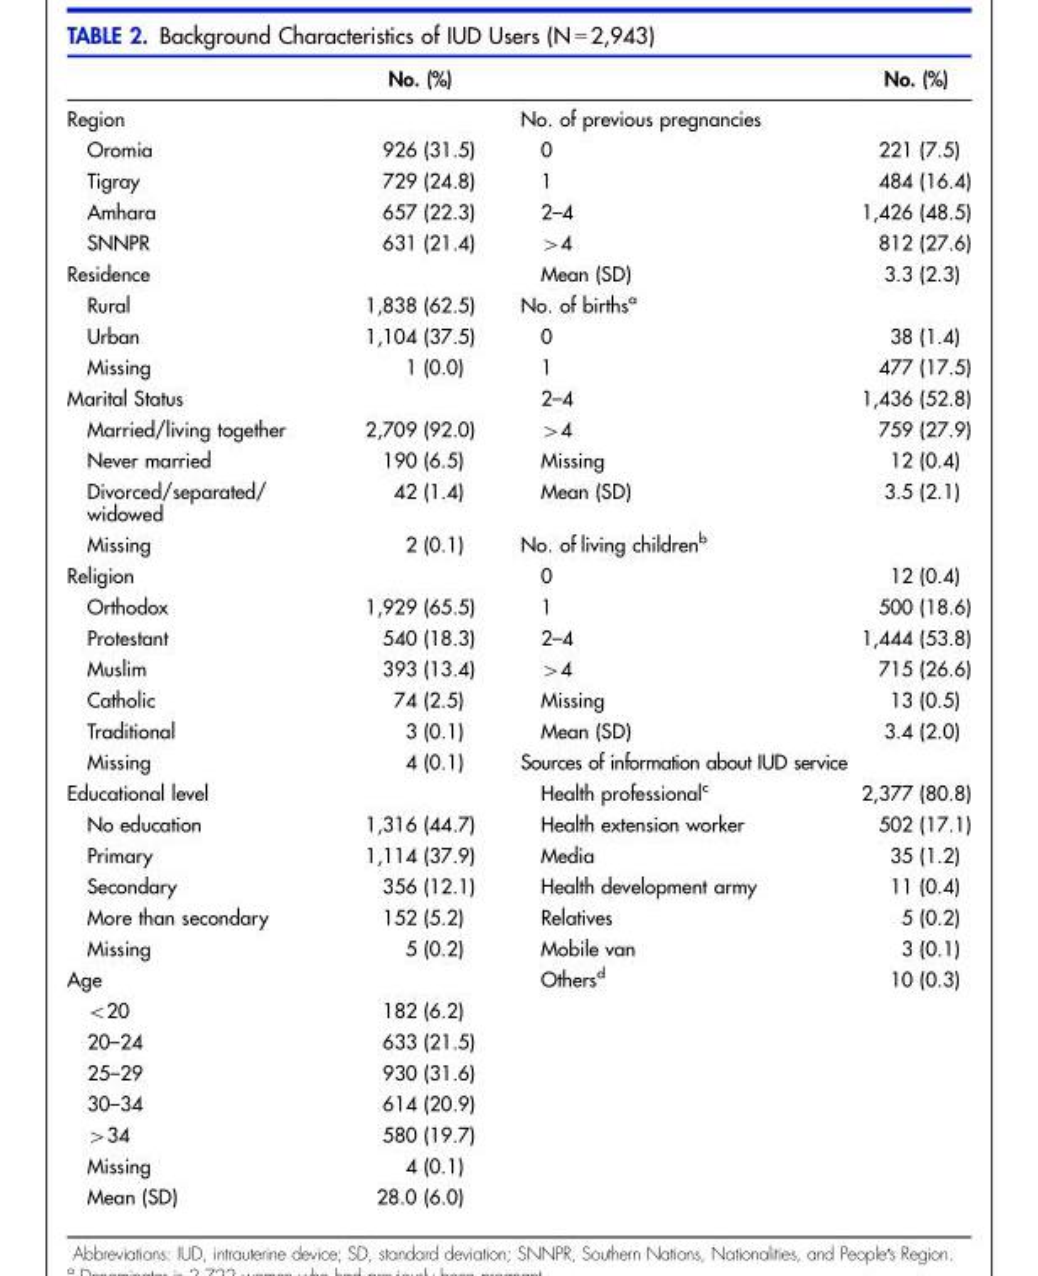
<table><thead><tr><td></td><td>No. (%)</td><td></td><td>No. (%)</td></tr></thead><tbody><tr><td>Region</td><td></td><td>No. of previous pregnancies</td><td></td></tr><tr><td>Oromia</td><td>926 (31.5)</td><td>0</td><td>221 (7.5)</td></tr><tr><td>Tigray</td><td>729 (24.8)</td><td>1</td><td>484 (16.4)</td></tr><tr><td>Amhara</td><td>657 (22.3)</td><td>2–4</td><td>1,426 (48.5)</td></tr><tr><td>SNNPR</td><td>631 (21.4)</td><td>&gt;4</td><td>812 (27.6)</td></tr><tr><td>Residence</td><td></td><td>Mean (SD)</td><td>3.3 (2.3)</td></tr><tr><td>Rural</td><td>1,838 (62.5)</td><td>No. of births<sup>a</sup></td><td></td></tr><tr><td>Urban</td><td>1,104 (37.5)</td><td>0</td><td>38 (1.4)</td></tr><tr><td>Missing</td><td>1 (0.0)</td><td>1</td><td>477 (17.5)</td></tr><tr><td>Marital Status</td><td></td><td>2–4</td><td>1,436 (52.8)</td></tr><tr><td>Married/living together</td><td>2,709 (92.0)</td><td>&gt;4</td><td>759 (27.9)</td></tr><tr><td>Never married</td><td>190 (6.5)</td><td>Missing</td><td>12 (0.4)</td></tr><tr><td>Divorced/separated/ widowed</td><td>42 (1.4)</td><td>Mean (SD)</td><td>3.5 (2.1)</td></tr><tr><td>Missing</td><td>2 (0.1)</td><td>No. of living children<sup>b</sup></td><td></td></tr><tr><td>Religion</td><td></td><td>0</td><td>12 (0.4)</td></tr><tr><td>Orthodox</td><td>1,929 (65.5)</td><td>1</td><td>500 (18.6)</td></tr><tr><td>Protestant</td><td>540 (18.3)</td><td>2–4</td><td>1,444 (53.8)</td></tr><tr><td>Muslim</td><td>393 (13.4)</td><td>&gt;4</td><td>715 (26.6)</td></tr><tr><td>Catholic</td><td>74 (2.5)</td><td>Missing</td><td>13 (0.5)</td></tr><tr><td>Traditional</td><td>3 (0.1)</td><td>Mean (SD)</td><td>3.4 (2.0)</td></tr><tr><td>Missing</td><td>4 (0.1)</td><td>Sources of information about IUD service</td><td></td></tr><tr><td>Educational level</td><td></td><td>Health professional<sup>c</sup></td><td>2,377 (80.8)</td></tr><tr><td>No education</td><td>1,316 (44.7)</td><td>Health extension worker</td><td>502 (17.1)</td></tr><tr><td>Primary</td><td>1,114 (37.9)</td><td>Media</td><td>35 (1.2)</td></tr><tr><td>Secondary</td><td>356 (12.1)</td><td>Health development army</td><td>11 (0.4)</td></tr><tr><td>More than secondary</td><td>152 (5.2)</td><td>Relatives</td><td>5 (0.2)</td></tr><tr><td>Missing</td><td>5 (0.2)</td><td>Mobile van</td><td>3 (0.1)</td></tr><tr><td>Age</td><td></td><td>Others<sup>d</sup></td><td>10 (0.3)</td></tr><tr><td>&lt;20</td><td>182 (6.2)</td><td></td><td></td></tr><tr><td>20–24</td><td>633 (21.5)</td><td></td><td></td></tr><tr><td>25–29</td><td>930 (31.6)</td><td></td><td></td></tr><tr><td>30–34</td><td>614 (20.9)</td><td></td><td></td></tr><tr><td>&gt;34</td><td>580 (19.7)</td><td></td><td></td></tr><tr><td>Missing</td><td>4 (0.1)</td><td></td><td></td></tr><tr><td>Mean (SD)</td><td>28.0 (6.0)</td><td></td><td></td></tr></tbody></table>